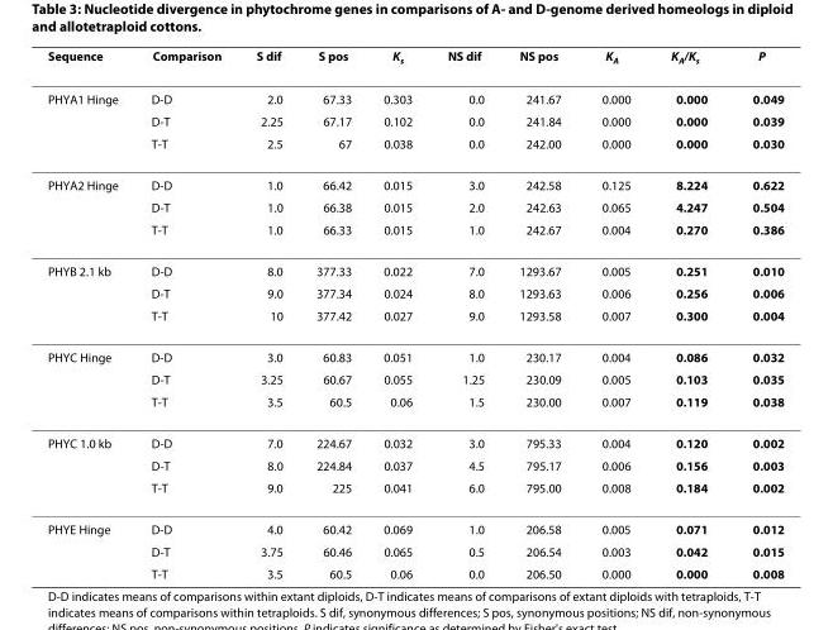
<table><thead><tr><td>Sequence</td><td>Comparison</td><td>S dif</td><td>S pos</td><td>K<sub>s</sub></td><td>NS dif</td><td>NS pos</td><td>K<sub>A</sub></td><td>K<sub>A</sub>/K<sub>s</sub></td><td>P</td></tr></thead><tbody><tr><td rowspan="3">PHYA1 Hinge</td><td>D-D</td><td>2.0</td><td>67.33</td><td>0.303</td><td>0.0</td><td>241.67</td><td>0.000</td><td>0.000</td><td>0.049</td></tr><tr><td>D-T</td><td>2.25</td><td>67.17</td><td>0.102</td><td>0.0</td><td>241.84</td><td>0.000</td><td>0.000</td><td>0.039</td></tr><tr><td>T-T</td><td>2.5</td><td>67</td><td>0.038</td><td>0.0</td><td>242.00</td><td>0.000</td><td>0.000</td><td>0.030</td></tr><tr><td rowspan="3">PHYA2 Hinge</td><td>D-D</td><td>1.0</td><td>66.42</td><td>0.015</td><td>3.0</td><td>242.58</td><td>0.125</td><td>8.224</td><td>0.622</td></tr><tr><td>D-T</td><td>1.0</td><td>66.38</td><td>0.015</td><td>2.0</td><td>242.63</td><td>0.065</td><td>4.247</td><td>0.504</td></tr><tr><td>T-T</td><td>1.0</td><td>66.33</td><td>0.015</td><td>1.0</td><td>242.67</td><td>0.004</td><td>0.270</td><td>0.386</td></tr><tr><td rowspan="3">PHYB 2.1 kb</td><td>D-D</td><td>8.0</td><td>377.33</td><td>0.022</td><td>7.0</td><td>1293.67</td><td>0.005</td><td>0.251</td><td>0.010</td></tr><tr><td>D-T</td><td>9.0</td><td>377.34</td><td>0.024</td><td>8.0</td><td>1293.63</td><td>0.006</td><td>0.256</td><td>0.006</td></tr><tr><td>T-T</td><td>10</td><td>377.42</td><td>0.027</td><td>9.0</td><td>1293.58</td><td>0.007</td><td>0.300</td><td>0.004</td></tr><tr><td rowspan="3">PHYC Hinge</td><td>D-D</td><td>3.0</td><td>60.83</td><td>0.051</td><td>1.0</td><td>230.17</td><td>0.004</td><td>0.086</td><td>0.032</td></tr><tr><td>D-T</td><td>3.25</td><td>60.67</td><td>0.055</td><td>1.25</td><td>230.09</td><td>0.005</td><td>0.103</td><td>0.035</td></tr><tr><td>T-T</td><td>3.5</td><td>60.5</td><td>0.06</td><td>1.5</td><td>230.00</td><td>0.007</td><td>0.119</td><td>0.038</td></tr><tr><td rowspan="3">PHYC 1.0 kb</td><td>D-D</td><td>7.0</td><td>224.67</td><td>0.032</td><td>3.0</td><td>795.33</td><td>0.004</td><td>0.120</td><td>0.002</td></tr><tr><td>D-T</td><td>8.0</td><td>224.84</td><td>0.037</td><td>4.5</td><td>795.17</td><td>0.006</td><td>0.156</td><td>0.003</td></tr><tr><td>T-T</td><td>9.0</td><td>225</td><td>0.041</td><td>6.0</td><td>795.00</td><td>0.008</td><td>0.184</td><td>0.002</td></tr><tr><td rowspan="3">PHYE Hinge</td><td>D-D</td><td>4.0</td><td>60.42</td><td>0.069</td><td>1.0</td><td>206.58</td><td>0.005</td><td>0.071</td><td>0.012</td></tr><tr><td>D-T</td><td>3.75</td><td>60.46</td><td>0.065</td><td>0.5</td><td>206.54</td><td>0.003</td><td>0.042</td><td>0.015</td></tr><tr><td>T-T</td><td>3.5</td><td>60.5</td><td>0.06</td><td>0.0</td><td>206.50</td><td>0.000</td><td>0.000</td><td>0.008</td></tr></tbody></table>